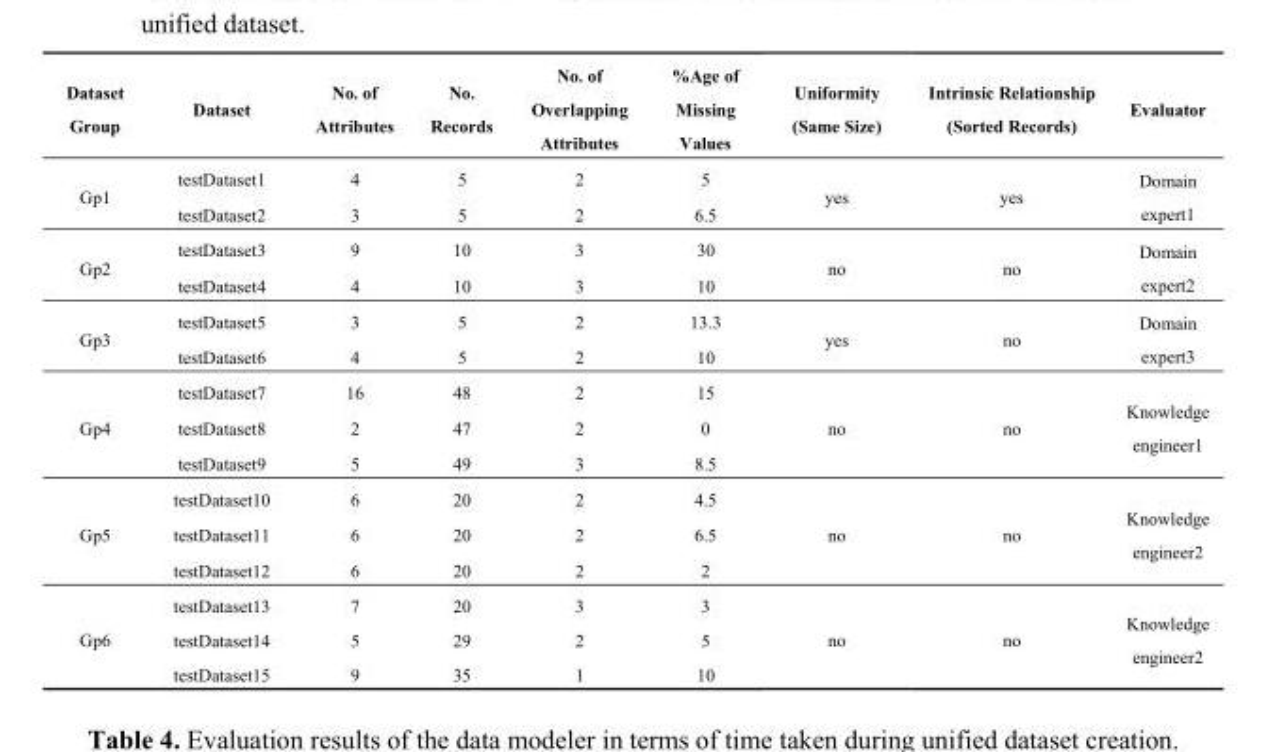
<table><thead><tr><td>Dataset Group</td><td>Dataset</td><td>No. of Attributes</td><td>No. Records</td><td>No. of Overlapping Attributes</td><td>%Age of Missing Values</td><td>Uniformity (Same Size)</td><td>Intrinsic Relationship (Sorted Records)</td><td>Evaluator</td></tr></thead><tbody><tr><td rowspan="2">Gp1</td><td>testDataset1</td><td>4</td><td>5</td><td>2</td><td>5</td><td rowspan="2">yes</td><td rowspan="2">yes</td><td rowspan="2">Domain expert1</td></tr><tr><td>testDataset2</td><td>3</td><td>5</td><td>2</td><td>6.5</td></tr><tr><td rowspan="2">Gp2</td><td>testDataset3</td><td>9</td><td>10</td><td>3</td><td>30</td><td rowspan="2">no</td><td rowspan="2">no</td><td rowspan="2">Domain expert2</td></tr><tr><td>testDataset4</td><td>4</td><td>10</td><td>3</td><td>10</td></tr><tr><td rowspan="2">Gp3</td><td>testDataset5</td><td>3</td><td>5</td><td>2</td><td>13.3</td><td rowspan="2">yes</td><td rowspan="2">no</td><td rowspan="2">Domain expert3</td></tr><tr><td>testDataset6</td><td>4</td><td>5</td><td>2</td><td>10</td></tr><tr><td rowspan="3">Gp4</td><td>testDataset7</td><td>16</td><td>48</td><td>2</td><td>15</td><td rowspan="3">no</td><td rowspan="3">no</td><td rowspan="3">Knowledge engineer1</td></tr><tr><td>testDataset8</td><td>2</td><td>47</td><td>2</td><td>0</td></tr><tr><td>testDataset9</td><td>5</td><td>49</td><td>3</td><td>8.5</td></tr><tr><td rowspan="3">Gp5</td><td>testDataset10</td><td>6</td><td>20</td><td>2</td><td>4.5</td><td rowspan="3">no</td><td rowspan="3">no</td><td rowspan="3">Knowledge engineer2</td></tr><tr><td>testDataset11</td><td>6</td><td>20</td><td>2</td><td>6.5</td></tr><tr><td>testDataset12</td><td>6</td><td>20</td><td>2</td><td>2</td></tr><tr><td rowspan="3">Gp6</td><td>testDataset13</td><td>7</td><td>20</td><td>3</td><td>3</td><td rowspan="3">no</td><td rowspan="3">no</td><td rowspan="3">Knowledge engineer2</td></tr><tr><td>testDataset14</td><td>5</td><td>29</td><td>2</td><td>5</td></tr><tr><td>testDataset15</td><td>9</td><td>35</td><td>1</td><td>10</td></tr></tbody></table>